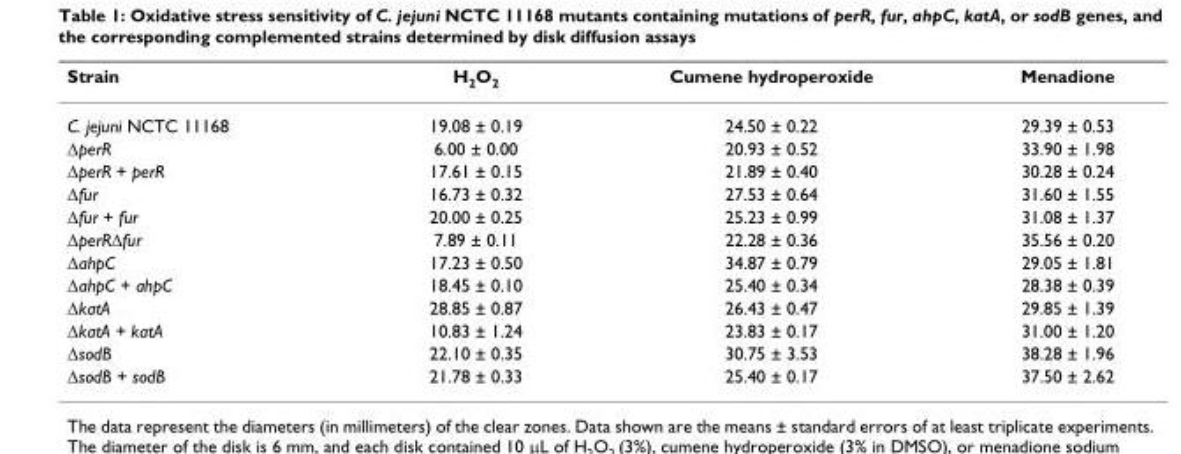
<table><thead><tr><td>Strain</td><td>H<sub>2</sub>O<sub>2</sub></td><td>Cumene hydroperoxide</td><td>Menadione</td></tr></thead><tbody><tr><td>C. jejuni NCTC 11168</td><td>19.08 ± 0.19</td><td>24.50 ± 0.22</td><td>29.39 ± 0.53</td></tr><tr><td>ΔperR</td><td>6.00 ± 0.00</td><td>20.93 ± 0.52</td><td>33.90 ± 1.98</td></tr><tr><td>ΔperR + perR</td><td>17.61 ± 0.15</td><td>21.89 ± 0.40</td><td>30.28 ± 0.24</td></tr><tr><td>Δfur</td><td>16.73 ± 0.32</td><td>27.53 ± 0.64</td><td>31.60 ± 1.55</td></tr><tr><td>Δfur + fur</td><td>20.00 ± 0.25</td><td>25.23 ± 0.99</td><td>31.08 ± 1.37</td></tr><tr><td>ΔperRΔfur</td><td>7.89 ± 0.11</td><td>22.28 ± 0.36</td><td>35.56 ± 0.20</td></tr><tr><td>ΔahpC</td><td>17.23 ± 0.50</td><td>34.87 ± 0.79</td><td>29.05 ± 1.81</td></tr><tr><td>ΔahpC + ahpC</td><td>18.45 ± 0.10</td><td>25.40 ± 0.34</td><td>28.38 ± 0.39</td></tr><tr><td>ΔkatA</td><td>28.85 ± 0.87</td><td>26.43 ± 0.47</td><td>29.85 ± 1.39</td></tr><tr><td>ΔkatA + katA</td><td>10.83 ± 1.24</td><td>23.83 ± 0.17</td><td>31.00 ± 1.20</td></tr><tr><td>ΔsodB</td><td>22.10 ± 0.35</td><td>30.75 ± 3.53</td><td>38.28 ± 1.96</td></tr><tr><td>ΔsodB + sodB</td><td>21.78 ± 0.33</td><td>25.40 ± 0.17</td><td>37.50 ± 2.62</td></tr></tbody></table>